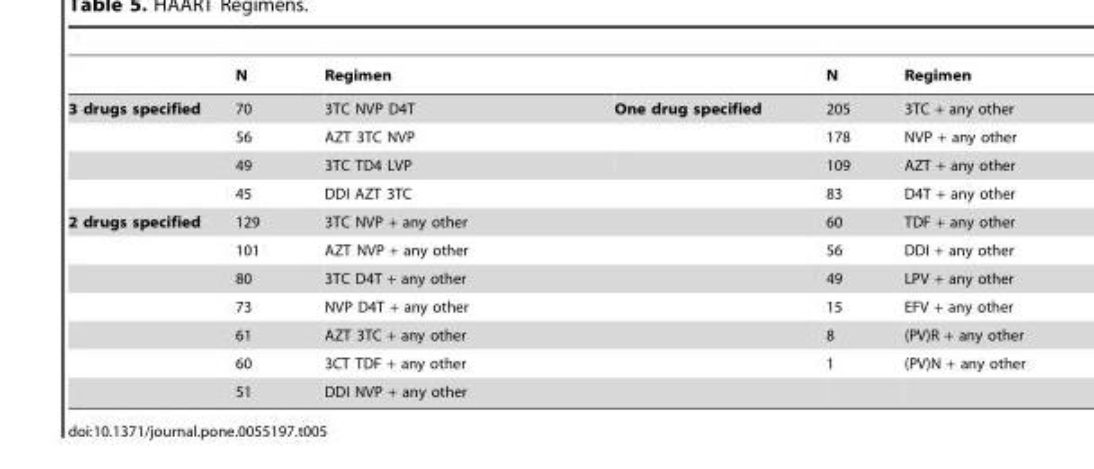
<table><thead><tr><td></td><td>N</td><td>Regimen</td><td></td><td>N</td><td>Regimen</td></tr></thead><tbody><tr><td rowspan="4">3 drugs specified</td><td>70</td><td>3TC NVP D4T</td><td>One drug specified</td><td>205</td><td>3TC + any other</td></tr><tr><td>56</td><td>AZT 3TC NVP</td><td></td><td>178</td><td>NVP + any other</td></tr><tr><td>49</td><td>3TC TD4 LVP</td><td></td><td>109</td><td>AZT + any other</td></tr><tr><td>45</td><td>DDI AZT 3TC</td><td></td><td>83</td><td>D4T + any other</td></tr><tr><td rowspan="7">2 drugs specified</td><td>129</td><td colspan="2">3TC NVP + any other</td><td>60</td><td>TDF + any other</td></tr><tr><td>101</td><td colspan="2">AZT NVP + any other</td><td>56</td><td>DDI + any other</td></tr><tr><td>80</td><td colspan="2">3TC D4T + any other</td><td>49</td><td>LPV + any other</td></tr><tr><td>73</td><td colspan="2">NVP D4T + any other</td><td>15</td><td>EFV + any other</td></tr><tr><td>61</td><td colspan="2">AZT 3TC + any other</td><td>8</td><td>(PV)R + any other</td></tr><tr><td>60</td><td colspan="2">3CT TDF + any other</td><td>1</td><td>(PV)N + any other</td></tr><tr><td>51</td><td colspan="2">DDI NVP + any other</td><td></td><td></td></tr></tbody></table>